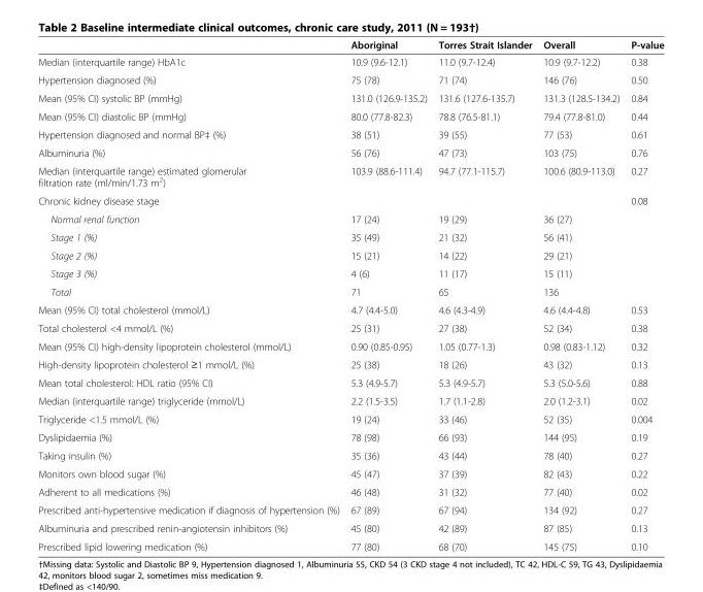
<table><thead><tr><td></td><td>Aboriginal</td><td>Torres Strait Islander</td><td>Overall</td><td>P-value</td></tr></thead><tbody><tr><td>Median (interquartile range) HbA1c</td><td>10.9 (9.6-12.1)</td><td>11.0 (9.7-12.4)</td><td>10.9 (9.7-12.2)</td><td>0.38</td></tr><tr><td>Hypertension diagnosed (%)</td><td>75 (78)</td><td>71 (74)</td><td>146 (76)</td><td>0.50</td></tr><tr><td>Mean (95% CI) systolic BP (mmHg)</td><td>131.0 (126.9-135.2)</td><td>131.6 (127.6-135.7)</td><td>131.3 (128.5-134.2)</td><td>0.84</td></tr><tr><td>Mean (95% CI) diastolic BP (mmHg)</td><td>80.0 (77.8-82.3)</td><td>78.8 (76.5-81.1)</td><td>79.4 (77.8-81.0)</td><td>0.44</td></tr><tr><td>Hypertension diagnosed and normal BP‡ (%)</td><td>38 (51)</td><td>39 (55)</td><td>77 (53)</td><td>0.61</td></tr><tr><td>Albuminuria (%)</td><td>56 (76)</td><td>47 (73)</td><td>103 (75)</td><td>0.76</td></tr><tr><td>Median (interquartile range) estimated glomerular filtration rate (ml/min/1.73 m<sup>2</sup>)</td><td>103.9 (88.6-111.4)</td><td>94.7 (77.1-115.7)</td><td>100.6 (80.9-113.0)</td><td>0.27</td></tr><tr><td>Chronic kidney disease stage</td><td></td><td></td><td></td><td>0.08</td></tr><tr><td>Normal renal function</td><td>17 (24)</td><td>19 (29)</td><td>36 (27)</td><td></td></tr><tr><td>Stage 1 (%)</td><td>35 (49)</td><td>21 (32)</td><td>56 (41)</td><td></td></tr><tr><td>Stage 2 (%)</td><td>15 (21)</td><td>14 (22)</td><td>29 (21)</td><td></td></tr><tr><td>Stage 3 (%)</td><td>4 (6)</td><td>11 (17)</td><td>15 (11)</td><td></td></tr><tr><td>Total</td><td>71</td><td>65</td><td>136</td><td></td></tr><tr><td>Mean (95% CI) total cholesterol (mmol/L)</td><td>4.7 (4.4-5.0)</td><td>4.6 (4.3-4.9)</td><td>4.6 (4.4-4.8)</td><td>0.53</td></tr><tr><td>Total cholesterol &lt;4 mmol/L (%)</td><td>25 (31)</td><td>27 (38)</td><td>52 (34)</td><td>0.38</td></tr><tr><td>Mean (95% CI) high-density lipoprotein cholesterol (mmol/L)</td><td>0.90 (0.85-0.95)</td><td>1.05 (0.77-1.3)</td><td>0.98 (0.83-1.12)</td><td>0.32</td></tr><tr><td>High-density lipoprotein cholesterol ≥1 mmol/L (%)</td><td>25 (38)</td><td>18 (26)</td><td>43 (32)</td><td>0.13</td></tr><tr><td>Mean total cholesterol: HDL ratio (95% CI)</td><td>5.3 (4.9-5.7)</td><td>5.3 (4.9-5.7)</td><td>5.3 (5.0-5.6)</td><td>0.88</td></tr><tr><td>Median (interquartile range) triglyceride (mmol/L)</td><td>2.2 (1.5-3.5)</td><td>1.7 (1.1-2.8)</td><td>2.0 (1.2-3.1)</td><td>0.02</td></tr><tr><td>Triglyceride &lt;1.5 mmol/L (%)</td><td>19 (24)</td><td>33 (46)</td><td>52 (35)</td><td>0.004</td></tr><tr><td>Dyslipidaemia (%)</td><td>78 (98)</td><td>66 (93)</td><td>144 (95)</td><td>0.19</td></tr><tr><td>Taking insulin (%)</td><td>35 (36)</td><td>43 (44)</td><td>78 (40)</td><td>0.27</td></tr><tr><td>Monitors own blood sugar (%)</td><td>45 (47)</td><td>37 (39)</td><td>82 (43)</td><td>0.22</td></tr><tr><td>Adherent to all medications (%)</td><td>46 (48)</td><td>31 (32)</td><td>77 (40)</td><td>0.02</td></tr><tr><td>Prescribed anti-hypertensive medication if diagnosis of hypertension (%)</td><td>67 (89)</td><td>67 (94)</td><td>134 (92)</td><td>0.27</td></tr><tr><td>Albuminuria and prescribed renin-angiotensin inhibitors (%)</td><td>45 (80)</td><td>42 (89)</td><td>87 (85)</td><td>0.13</td></tr><tr><td>Prescribed lipid lowering medication (%)</td><td>77 (80)</td><td>68 (70)</td><td>145 (75)</td><td>0.10</td></tr></tbody></table>